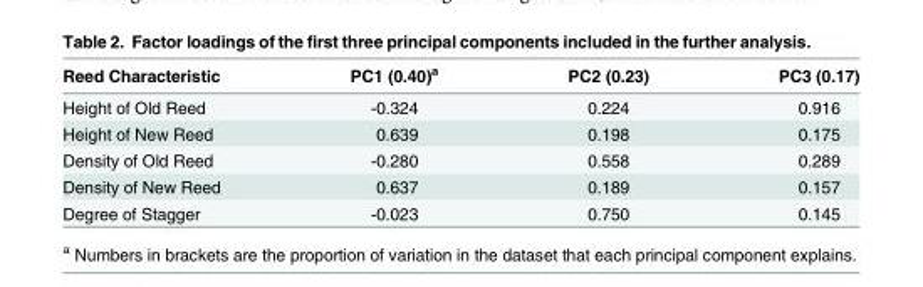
<table><thead><tr><td>Reed Characteristic</td><td>PC1 (0.40)<sup>a</sup></td><td>PC2 (0.23)</td><td>PC3 (0.17)</td></tr></thead><tbody><tr><td>Height of Old Reed</td><td>-0.324</td><td>0.224</td><td>0.916</td></tr><tr><td>Height of New Reed</td><td>0.639</td><td>0.198</td><td>0.175</td></tr><tr><td>Density of Old Reed</td><td>-0.280</td><td>0.558</td><td>0.289</td></tr><tr><td>Density of New Reed</td><td>0.637</td><td>0.189</td><td>0.157</td></tr><tr><td>Degree of Stagger</td><td>-0.023</td><td>0.750</td><td>0.145</td></tr></tbody></table>